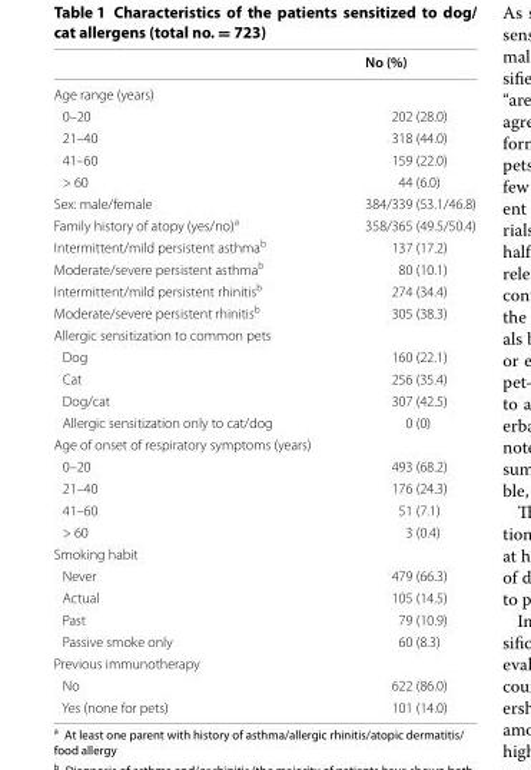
<table><thead><tr><td></td><td>No (%)</td></tr></thead><tbody><tr><td colspan="2">Age range (years)</td></tr><tr><td>0–20</td><td>202 (28.0)</td></tr><tr><td>21–40</td><td>318 (44.0)</td></tr><tr><td>41–60</td><td>159 (22.0)</td></tr><tr><td>&gt; 60</td><td>44 (6.0)</td></tr><tr><td>Sex: male/female</td><td>384/339 (53.1/46.8)</td></tr><tr><td>Family history of atopy (yes/no)<sup>a</sup></td><td>358/365 (49.5/50.4)</td></tr><tr><td>Intermittent/mild persistent asthma<sup>b</sup></td><td>137 (17.2)</td></tr><tr><td>Moderate/severe persistent asthma<sup>b</sup></td><td>80 (10.1)</td></tr><tr><td>Intermittent/mild persistent rhinitis<sup>b</sup></td><td>274 (34.4)</td></tr><tr><td>Moderate/severe persistent rhinitis<sup>b</sup></td><td>305 (38.3)</td></tr><tr><td colspan="2">Allergic sensitization to common pets</td></tr><tr><td>Dog</td><td>160 (22.1)</td></tr><tr><td>Cat</td><td>256 (35.4)</td></tr><tr><td>Dog/cat</td><td>307 (42.5)</td></tr><tr><td>Allergic sensitization only to cat/dog</td><td>0 (0)</td></tr><tr><td colspan="2">Age of onset of respiratory symptoms (years)</td></tr><tr><td>0–20</td><td>493 (68.2)</td></tr><tr><td>21–40</td><td>176 (24.3)</td></tr><tr><td>41–60</td><td>51 (7.1)</td></tr><tr><td>&gt; 60</td><td>3 (0.4)</td></tr><tr><td colspan="2">Smoking habit</td></tr><tr><td>Never</td><td>479 (66.3)</td></tr><tr><td>Actual</td><td>105 (14.5)</td></tr><tr><td>Past</td><td>79 (10.9)</td></tr><tr><td>Passive smoke only</td><td>60 (8.3)</td></tr><tr><td colspan="2">Previous immunotherapy</td></tr><tr><td>No</td><td>622 (86.0)</td></tr><tr><td>Yes (none for pets)</td><td>101 (14.0)</td></tr></tbody></table>